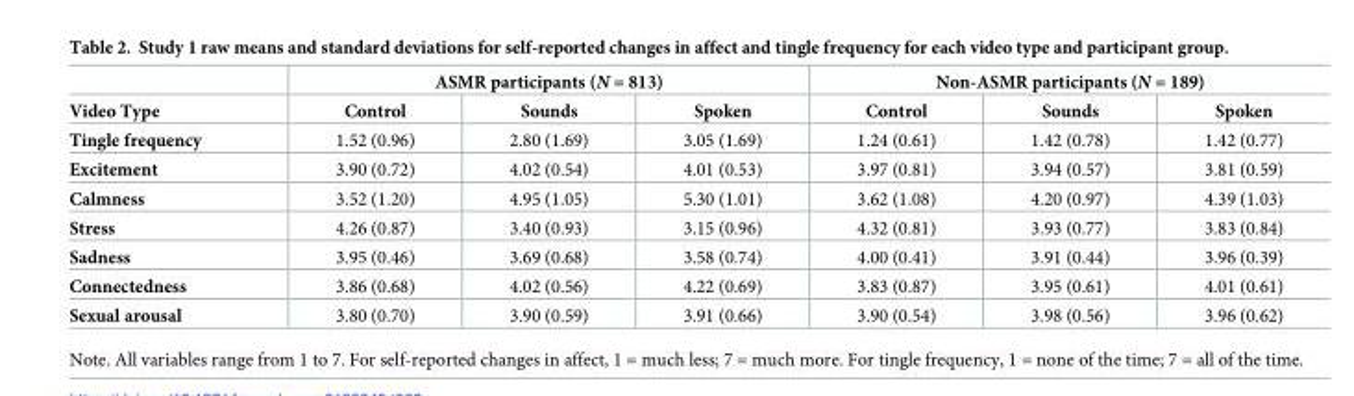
<table><thead><tr><td rowspan="2">Video Type</td><td colspan="3">ASMR participants (N = 813)</td><td colspan="3">Non-ASMR participants (N = 189)</td></tr><tr><td>Control</td><td>Sounds</td><td>Spoken</td><td>Control</td><td>Sounds</td><td>Spoken</td></tr></thead><tbody><tr><td>Tingle frequency</td><td>1.52 (0.96)</td><td>2.80 (1.69)</td><td>3.05 (1.69)</td><td>1.24 (0.61)</td><td>1.42 (0.78)</td><td>1.42 (0.77)</td></tr><tr><td>Excitement</td><td>3.90 (0.72)</td><td>4.02 (0.54)</td><td>4.01 (0.53)</td><td>3.97 (0.81)</td><td>3.94 (0.57)</td><td>3.81 (0.59)</td></tr><tr><td>Calmness</td><td>3.52 (1.20)</td><td>4.95 (1.05)</td><td>5.30 (1.01)</td><td>3.62 (1.08)</td><td>4.20 (0.97)</td><td>4.39 (1.03)</td></tr><tr><td>Stress</td><td>4.26 (0.87)</td><td>3.40 (0.93)</td><td>3.15 (0.96)</td><td>4.32 (0.81)</td><td>3.93 (0.77)</td><td>3.83 (0.84)</td></tr><tr><td>Sadness</td><td>3.95 (0.46)</td><td>3.69 (0.68)</td><td>3.58 (0.74)</td><td>4.00 (0.41)</td><td>3.91 (0.44)</td><td>3.96 (0.39)</td></tr><tr><td>Connectedness</td><td>3.86 (0.68)</td><td>4.02 (0.56)</td><td>4.22 (0.69)</td><td>3.83 (0.87)</td><td>3.95 (0.61)</td><td>4.01 (0.61)</td></tr><tr><td>Sexual arousal</td><td>3.80 (0.70)</td><td>3.90 (0.59)</td><td>3.91 (0.66)</td><td>3.90 (0.54)</td><td>3.98 (0.56)</td><td>3.96 (0.62)</td></tr></tbody></table>